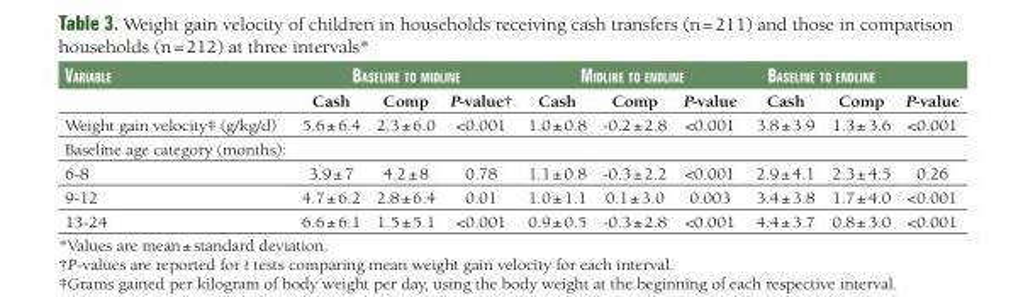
<table><thead><tr><td rowspan="2">Variable</td><td colspan="3">baseline to midline</td><td colspan="3">midline to endline</td><td colspan="2">baseline to endline</td><td rowspan="2">P-value</td></tr><tr><td>Cash</td><td>Comp</td><td>P-value†</td><td>Cash</td><td>Comp</td><td>P-value</td><td>Cash</td><td>Comp</td></tr></thead><tbody><tr><td>Weight gain velocity‡ (g/kg/d)</td><td>5.6 ± 6.4</td><td>2.3 ± 6.0</td><td>&lt;0.001</td><td>1.0 ± 0.8</td><td>-0.2 ± 2.8</td><td>&lt;0.001</td><td>3.8 ± 3.9</td><td>1.3 ± 3.6</td><td>&lt;0.001</td></tr><tr><td colspan="10">Baseline age category (months):</td></tr><tr><td>6-8</td><td>3.9 ± 7</td><td>4.2 ± 8</td><td>0.78</td><td>1.1 ± 0.8</td><td>-0.3 ± 2.2</td><td>&lt;0.001</td><td>2.9 ± 4.1</td><td>2.3 ± 4.5</td><td>0.26</td></tr><tr><td>9-12</td><td>4.7 ± 6.2</td><td>2.8 ± 6.4</td><td>0.01</td><td>1.0 ± 1.1</td><td>0.1 ± 3.0</td><td>0.003</td><td>3.4 ± 3.8</td><td>1.7 ± 4.0</td><td>&lt;0.001</td></tr><tr><td>13-24</td><td>6.6 ± 6.1</td><td>1.5 ± 5.1</td><td>&lt;0.001</td><td>0.9 ± 0.5</td><td>-0.3 ± 2.8</td><td>&lt;0.001</td><td>4.4 ± 3.7</td><td>0.8 ± 3.0</td><td>&lt;0.001</td></tr></tbody></table>